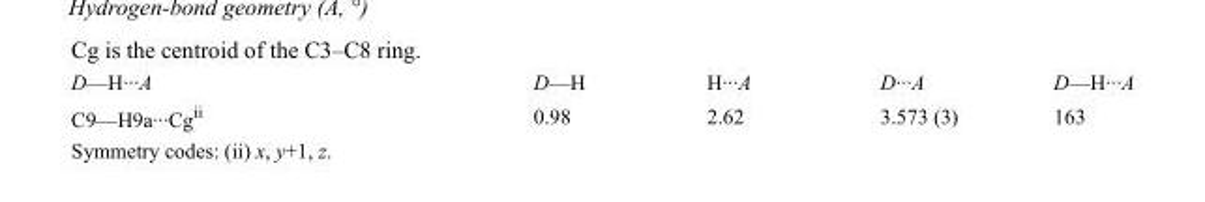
<table><tbody><tr><td>D—H···A</td><td>D—H</td><td>H···A</td><td>D···A</td><td>D—H···A</td></tr><tr><td>C9—H9a···Cg<sup>ii</sup></td><td>0.98</td><td>2.62</td><td>3.573 (3)</td><td>163</td></tr></tbody></table>